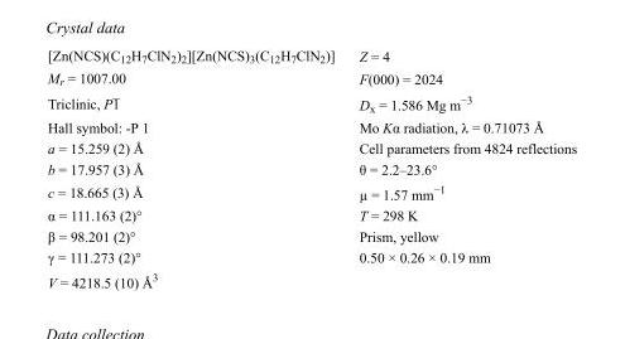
<table><tbody><tr><td>[Zn(NCS)(C<sub>12</sub>H<sub>7</sub>ClN<sub>2</sub>)<sub>2</sub>][Zn(NCS)<sub>3</sub>(C<sub>12</sub>H<sub>7</sub>ClN<sub>2</sub>)]</td><td>Z = 4</td></tr><tr><td>M<sub>r</sub> = 1007.00</td><td>F(000) = 2024</td></tr><tr><td>Triclinic, P1</td><td>D<sub>x</sub> = 1.586 Mg m<sup>−3</sup></td></tr><tr><td>Hall symbol: -P 1</td><td>Mo Kα radiation, λ = 0.71073 Å</td></tr><tr><td>a = 15.259 (2) Å</td><td>Cell parameters from 4824 reflections</td></tr><tr><td>b = 17.957 (3) Å</td><td>θ = 2.2–23.6°</td></tr><tr><td>c = 18.665 (3) Å</td><td>µ = 1.57 mm<sup>−1</sup></td></tr><tr><td>α = 111.163 (2)°</td><td>T = 298 K</td></tr><tr><td>β = 98.201 (2)°</td><td>Prism, yellow</td></tr><tr><td>γ = 111.273 (2)°</td><td>0.50 × 0.26 × 0.19 mm</td></tr><tr><td>V = 4218.5 (10) Å<sup>3</sup></td><td></td></tr></tbody></table>